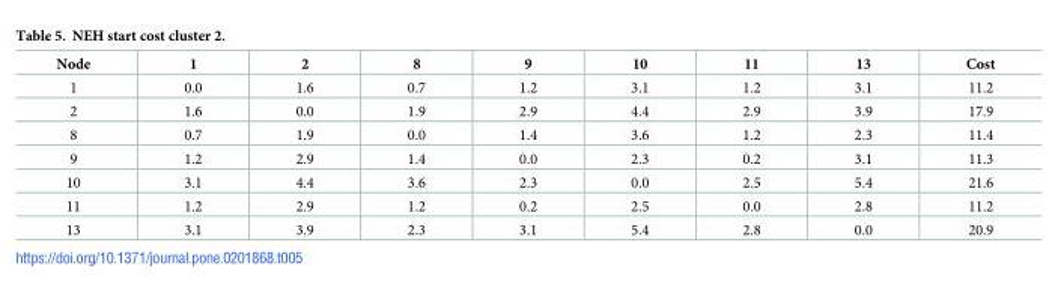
<table><thead><tr><td>Node</td><td>1</td><td>2</td><td>8</td><td>9</td><td>10</td><td>11</td><td>13</td><td>Cost</td></tr></thead><tbody><tr><td>1</td><td>0.0</td><td>1.6</td><td>0.7</td><td>1.2</td><td>3.1</td><td>1.2</td><td>3.1</td><td>11.2</td></tr><tr><td>2</td><td>1.6</td><td>0.0</td><td>1.9</td><td>2.9</td><td>4.4</td><td>2.9</td><td>3.9</td><td>17.9</td></tr><tr><td>8</td><td>0.7</td><td>1.9</td><td>0.0</td><td>1.4</td><td>3.6</td><td>1.2</td><td>2.3</td><td>11.4</td></tr><tr><td>9</td><td>1.2</td><td>2.9</td><td>1.4</td><td>0.0</td><td>2.3</td><td>0.2</td><td>3.1</td><td>11.3</td></tr><tr><td>10</td><td>3.1</td><td>4.4</td><td>3.6</td><td>2.3</td><td>0.0</td><td>2.5</td><td>5.4</td><td>21.6</td></tr><tr><td>11</td><td>1.2</td><td>2.9</td><td>1.2</td><td>0.2</td><td>2.5</td><td>0.0</td><td>2.8</td><td>11.2</td></tr><tr><td>13</td><td>3.1</td><td>3.9</td><td>2.3</td><td>3.1</td><td>5.4</td><td>2.8</td><td>0.0</td><td>20.9</td></tr></tbody></table>